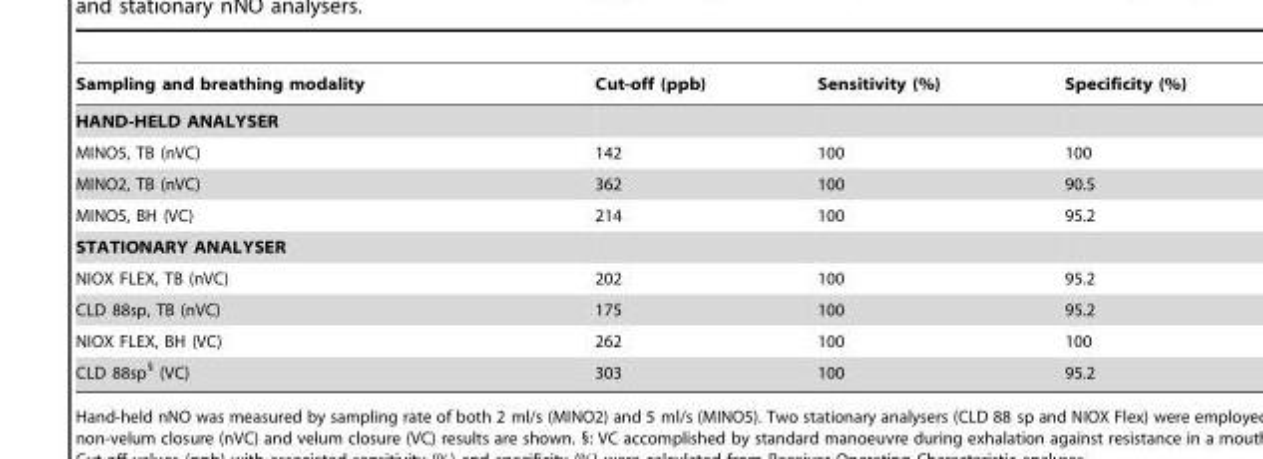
<table><thead><tr><td>Sampling and breathing modality</td><td>Cut-off (ppb)</td><td>Sensitivity (%)</td><td>Specificity (%)</td></tr></thead><tbody><tr><td colspan="4">HAND-HELD ANALYSER</td></tr><tr><td>MINO5, TB (nVC)</td><td>142</td><td>100</td><td>100</td></tr><tr><td>MINO2, TB (nVC)</td><td>362</td><td>100</td><td>90.5</td></tr><tr><td>MINO5, BH (VC)</td><td>214</td><td>100</td><td>95.2</td></tr><tr><td colspan="4">STATIONARY ANALYSER</td></tr><tr><td>NIOX FLEX, TB (nVC)</td><td>202</td><td>100</td><td>95.2</td></tr><tr><td>CLD 88sp, TB (nVC)</td><td>175</td><td>100</td><td>95.2</td></tr><tr><td>NIOX FLEX, BH (VC)</td><td>262</td><td>100</td><td>100</td></tr><tr><td>CLD 88sp<sup>§</sup> (VC)</td><td>303</td><td>100</td><td>95.2</td></tr></tbody></table>